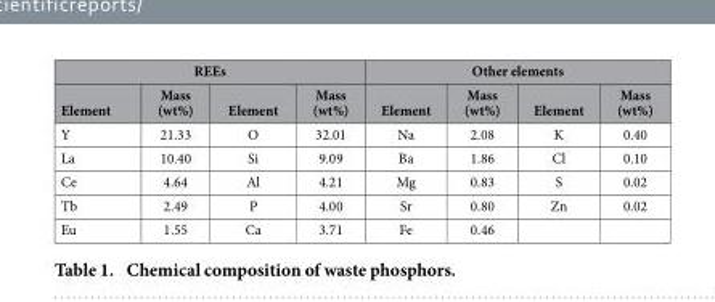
<table><thead><tr><td colspan="4">REEs</td><td colspan="4">Other elements</td></tr><tr><td>Element</td><td>Mass (wt%)</td><td>Element</td><td>Mass (wt%)</td><td>Element</td><td>Mass (wt%)</td><td>Element</td><td>Mass (wt%)</td></tr></thead><tbody><tr><td>Y</td><td>21.33</td><td>O</td><td>32.01</td><td>Na</td><td>2.08</td><td>K</td><td>0.40</td></tr><tr><td>La</td><td>10.40</td><td>Si</td><td>9.09</td><td>Ba</td><td>1.86</td><td>Cl</td><td>0.10</td></tr><tr><td>Ce</td><td>4.64</td><td>Al</td><td>4.21</td><td>Mg</td><td>0.83</td><td>S</td><td>0.02</td></tr><tr><td>Tb</td><td>2.49</td><td>P</td><td>4.00</td><td>Sr</td><td>0.80</td><td>Zn</td><td>0.02</td></tr><tr><td>Eu</td><td>1.55</td><td>Ca</td><td>3.71</td><td>Fe</td><td>0.46</td><td></td><td></td></tr></tbody></table>